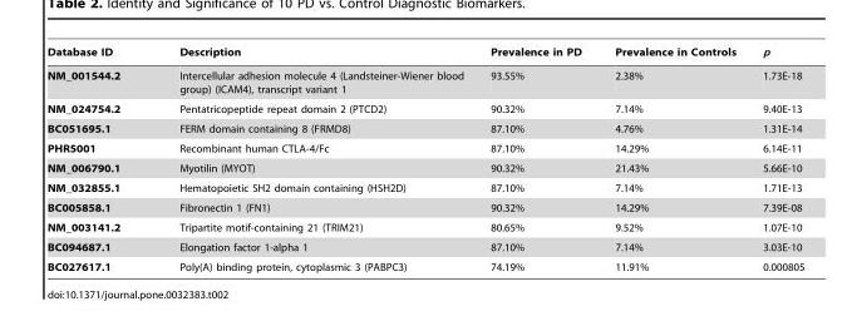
<table><thead><tr><td>Database ID</td><td>Description</td><td>Prevalence in PD</td><td>Prevalence in Controls</td><td>p</td></tr></thead><tbody><tr><td>NM_001544.2</td><td>Intercellular adhesion molecule 4 (Landsteiner-Wiener blood group) (ICAM4), transcript variant 1</td><td>93.55%</td><td>2.38%</td><td>1.73E-18</td></tr><tr><td>NM_024754.2</td><td>Pentatricopeptide repeat domain 2 (PTCD2)</td><td>90.32%</td><td>7.14%</td><td>9.40E-13</td></tr><tr><td>BC051695.1</td><td>FERM domain containing 8 (FRMD8)</td><td>87.10%</td><td>4.76%</td><td>1.31E-14</td></tr><tr><td>PHR5001</td><td>Recombinant human CTLA-4/Fc</td><td>87.10%</td><td>14.29%</td><td>6.14E-11</td></tr><tr><td>NM_006790.1</td><td>Myotilin (MYOT)</td><td>90.32%</td><td>21.43%</td><td>5.66E-10</td></tr><tr><td>NM_032855.1</td><td>Hematopoietic SH2 domain containing (HSH2D)</td><td>87.10%</td><td>7.14%</td><td>1.71E-13</td></tr><tr><td>BC005858.1</td><td>Fibronectin 1 (FN1)</td><td>90.32%</td><td>14.29%</td><td>7.39E-08</td></tr><tr><td>NM_003141.2</td><td>Tripartite motif-containing 21 (TRIM21)</td><td>80.65%</td><td>9.52%</td><td>1.07E-10</td></tr><tr><td>BC094687.1</td><td>Elongation factor 1-alpha 1</td><td>87.10%</td><td>7.14%</td><td>3.03E-10</td></tr><tr><td>BC027617.1</td><td>Poly(A) binding protein, cytoplasmic 3 (PABPC3)</td><td>74.19%</td><td>11.91%</td><td>0.000805</td></tr></tbody></table>